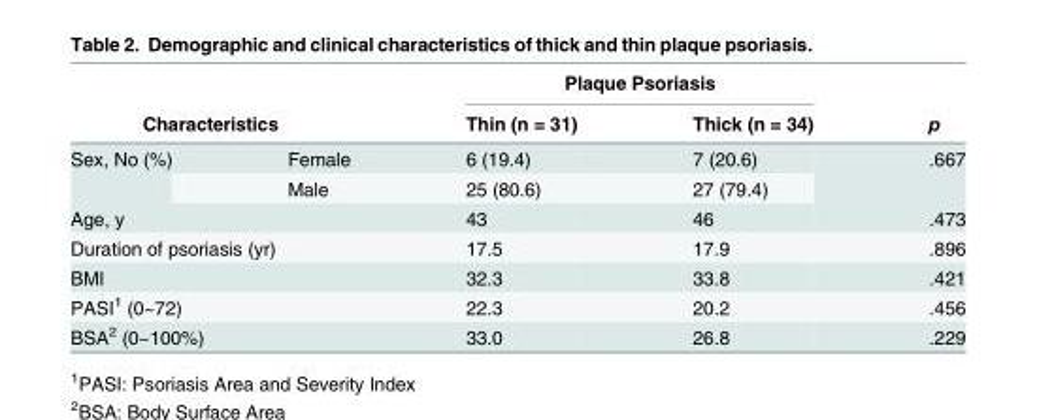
<table><thead><tr><td></td><td></td><td colspan="2">Plaque Psoriasis</td><td rowspan="2">p</td></tr><tr><td colspan="2">Characteristics</td><td>Thin (n = 31)</td><td>Thick (n = 34)</td></tr></thead><tbody><tr><td rowspan="2">Sex, No (%)</td><td>Female</td><td>6 (19.4)</td><td>7 (20.6)</td><td rowspan="2">.667</td></tr><tr><td>Male</td><td>25 (80.6)</td><td>27 (79.4)</td></tr><tr><td colspan="2">Age, y</td><td>43</td><td>46</td><td>.473</td></tr><tr><td colspan="2">Duration of psoriasis (yr)</td><td>17.5</td><td>17.9</td><td>.896</td></tr><tr><td>BMI</td><td></td><td>32.3</td><td>33.8</td><td>.421</td></tr><tr><td colspan="2">PASI<sup>1</sup> (0~72)</td><td>22.3</td><td>20.2</td><td>.456</td></tr><tr><td colspan="2">BSA<sup>2</sup> (0~100%)</td><td>33.0</td><td>26.8</td><td>.229</td></tr></tbody></table>